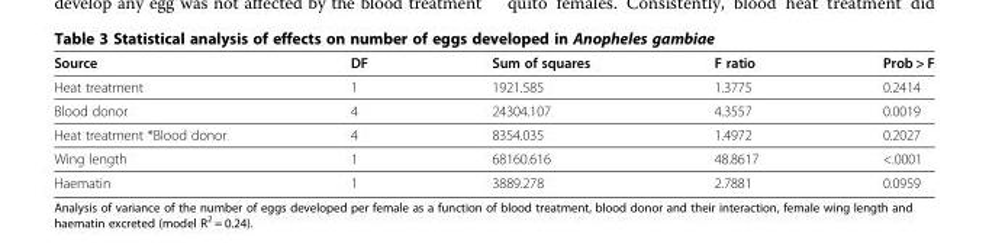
<table><thead><tr><td>Source</td><td>DF</td><td>Sum of squares</td><td>F ratio</td><td>Prob &gt; F</td></tr></thead><tbody><tr><td>Heat treatment</td><td>1</td><td>1921.585</td><td>1.3775</td><td>0.2414</td></tr><tr><td>Blood donor</td><td>4</td><td>24304.107</td><td>4.3557</td><td>0.0019</td></tr><tr><td>Heat treatment *Blood donor</td><td>4</td><td>8354.035</td><td>1.4972</td><td>0.2027</td></tr><tr><td>Wing length</td><td>1</td><td>68160.616</td><td>48.8617</td><td>&lt;.0001</td></tr><tr><td>Haematin</td><td>1</td><td>3889.278</td><td>2.7881</td><td>0.0959</td></tr></tbody></table>